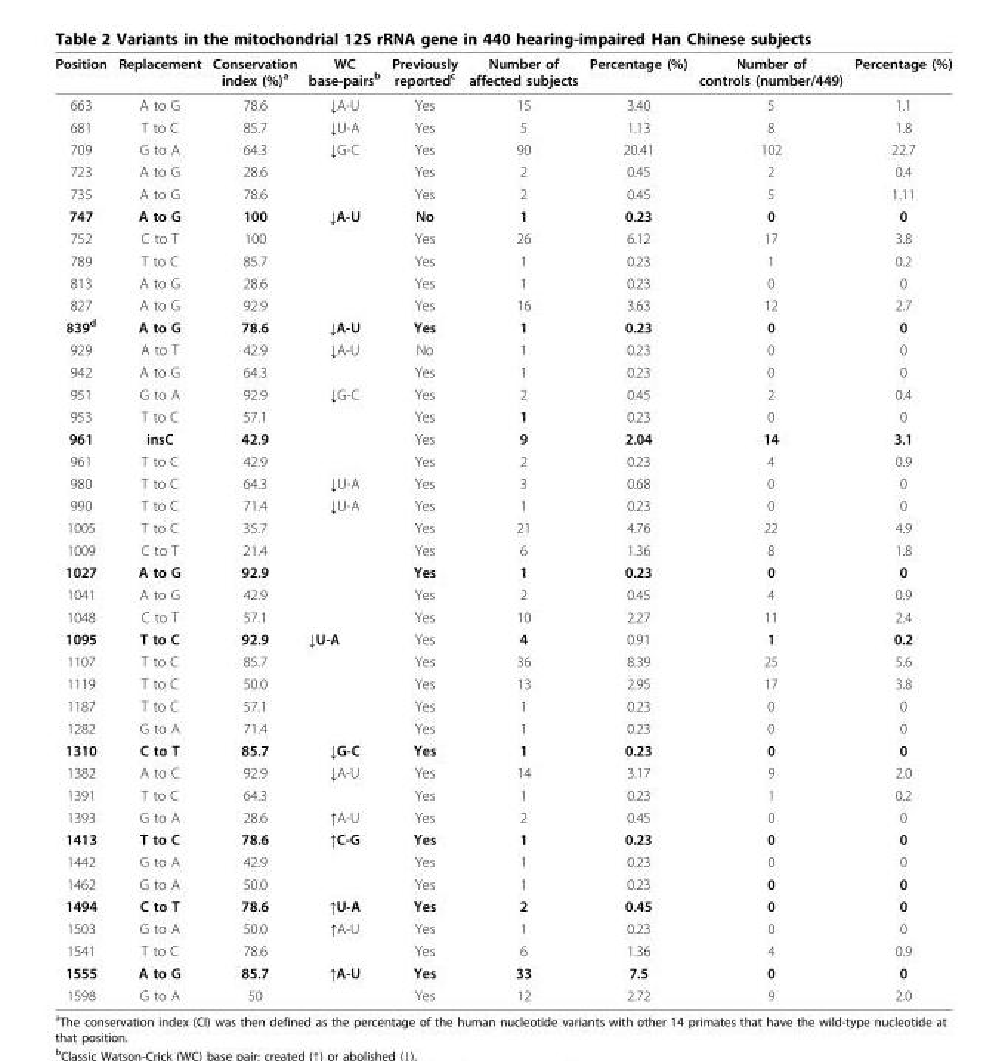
<table><thead><tr><td>Position</td><td>Replacement</td><td>Conservation index (%)<sup>a</sup></td><td>WC base-pairs<sup>b</sup></td><td>Previously reported<sup>c</sup></td><td>Number of affected subjects</td><td>Percentage (%)</td><td>Number of controls (number/449)</td><td>Percentage (%)</td></tr></thead><tbody><tr><td>663</td><td>A to G</td><td>78.6</td><td>↓A-U</td><td>Yes</td><td>15</td><td>3.40</td><td>5</td><td>1.1</td></tr><tr><td>681</td><td>T to C</td><td>85.7</td><td>↓U-A</td><td>Yes</td><td>5</td><td>1.13</td><td>8</td><td>1.8</td></tr><tr><td>709</td><td>G to A</td><td>64.3</td><td>↓G-C</td><td>Yes</td><td>90</td><td>20.41</td><td>102</td><td>22.7</td></tr><tr><td>723</td><td>A to G</td><td>28.6</td><td></td><td>Yes</td><td>2</td><td>0.45</td><td>2</td><td>0.4</td></tr><tr><td>735</td><td>A to G</td><td>78.6</td><td></td><td>Yes</td><td>2</td><td>0.45</td><td>5</td><td>1.11</td></tr><tr><td>747</td><td>A to G</td><td>100</td><td>↓A-U</td><td>No</td><td>1</td><td>0.23</td><td>0</td><td>0</td></tr><tr><td>752</td><td>C to T</td><td>100</td><td></td><td>Yes</td><td>26</td><td>6.12</td><td>17</td><td>3.8</td></tr><tr><td>789</td><td>T to C</td><td>85.7</td><td></td><td>Yes</td><td>1</td><td>0.23</td><td>1</td><td>0.2</td></tr><tr><td>813</td><td>A to G</td><td>28.6</td><td></td><td>Yes</td><td>1</td><td>0.23</td><td>0</td><td>0</td></tr><tr><td>827</td><td>A to G</td><td>92.9</td><td></td><td>Yes</td><td>16</td><td>3.63</td><td>12</td><td>2.7</td></tr><tr><td>839<sup>d</sup></td><td>A to G</td><td>78.6</td><td>↓A-U</td><td>Yes</td><td>1</td><td>0.23</td><td>0</td><td>0</td></tr><tr><td>929</td><td>A to T</td><td>42.9</td><td>↓A-U</td><td>No</td><td>1</td><td>0.23</td><td>0</td><td>0</td></tr><tr><td>942</td><td>A to G</td><td>64.3</td><td></td><td>Yes</td><td>1</td><td>0.23</td><td>0</td><td>0</td></tr><tr><td>951</td><td>G to A</td><td>92.9</td><td>↓G-C</td><td>Yes</td><td>2</td><td>0.45</td><td>2</td><td>0.4</td></tr><tr><td>953</td><td>T to C</td><td>57.1</td><td></td><td>Yes</td><td>1</td><td>0.23</td><td>0</td><td>0</td></tr><tr><td>961</td><td>insC</td><td>42.9</td><td></td><td>Yes</td><td>9</td><td>2.04</td><td>14</td><td>3.1</td></tr><tr><td>961</td><td>T to C</td><td>42.9</td><td></td><td>Yes</td><td>2</td><td>0.23</td><td>4</td><td>0.9</td></tr><tr><td>980</td><td>T to C</td><td>64.3</td><td>↓U-A</td><td>Yes</td><td>3</td><td>0.68</td><td>0</td><td>0</td></tr><tr><td>990</td><td>T to C</td><td>71.4</td><td>↓U-A</td><td>Yes</td><td>1</td><td>0.23</td><td>0</td><td>0</td></tr><tr><td>1005</td><td>T to C</td><td>35.7</td><td></td><td>Yes</td><td>21</td><td>4.76</td><td>22</td><td>4.9</td></tr><tr><td>1009</td><td>C to T</td><td>21.4</td><td></td><td>Yes</td><td>6</td><td>1.36</td><td>8</td><td>1.8</td></tr><tr><td>1027</td><td>A to G</td><td>92.9</td><td></td><td>Yes</td><td>1</td><td>0.23</td><td>0</td><td>0</td></tr><tr><td>1041</td><td>A to G</td><td>42.9</td><td></td><td>Yes</td><td>2</td><td>0.45</td><td>4</td><td>0.9</td></tr><tr><td>1048</td><td>C to T</td><td>57.1</td><td></td><td>Yes</td><td>10</td><td>2.27</td><td>11</td><td>2.4</td></tr><tr><td>1095</td><td>T to C</td><td>92.9</td><td>↓U-A</td><td>Yes</td><td>4</td><td>0.91</td><td>1</td><td>0.2</td></tr><tr><td>1107</td><td>T to C</td><td>85.7</td><td></td><td>Yes</td><td>36</td><td>8.39</td><td>25</td><td>5.6</td></tr><tr><td>1119</td><td>T to C</td><td>50.0</td><td></td><td>Yes</td><td>13</td><td>2.95</td><td>17</td><td>3.8</td></tr><tr><td>1187</td><td>T to C</td><td>57.1</td><td></td><td>Yes</td><td>1</td><td>0.23</td><td>0</td><td>0</td></tr><tr><td>1282</td><td>G to A</td><td>71.4</td><td></td><td>Yes</td><td>1</td><td>0.23</td><td>0</td><td>0</td></tr><tr><td>1310</td><td>C to T</td><td>85.7</td><td>↓G-C</td><td>Yes</td><td>1</td><td>0.23</td><td>0</td><td>0</td></tr><tr><td>1382</td><td>A to C</td><td>92.9</td><td>↓A-U</td><td>Yes</td><td>14</td><td>3.17</td><td>9</td><td>2.0</td></tr><tr><td>1391</td><td>T to C</td><td>64.3</td><td></td><td>Yes</td><td>1</td><td>0.23</td><td>1</td><td>0.2</td></tr><tr><td>1393</td><td>G to A</td><td>28.6</td><td>↑A-U</td><td>Yes</td><td>2</td><td>0.45</td><td>0</td><td>0</td></tr><tr><td>1413</td><td>T to C</td><td>78.6</td><td>↑C-G</td><td>Yes</td><td>1</td><td>0.23</td><td>0</td><td>0</td></tr><tr><td>1442</td><td>G to A</td><td>42.9</td><td></td><td>Yes</td><td>1</td><td>0.23</td><td>0</td><td>0</td></tr><tr><td>1462</td><td>G to A</td><td>50.0</td><td></td><td>Yes</td><td>1</td><td>0.23</td><td>0</td><td>0</td></tr><tr><td>1494</td><td>C to T</td><td>78.6</td><td>↑U-A</td><td>Yes</td><td>2</td><td>0.45</td><td>0</td><td>0</td></tr><tr><td>1503</td><td>G to A</td><td>50.0</td><td>↑A-U</td><td>Yes</td><td>1</td><td>0.23</td><td>0</td><td>0</td></tr><tr><td>1541</td><td>T to C</td><td>78.6</td><td></td><td>Yes</td><td>6</td><td>1.36</td><td>4</td><td>0.9</td></tr><tr><td>1555</td><td>A to G</td><td>85.7</td><td>↑A-U</td><td>Yes</td><td>33</td><td>7.5</td><td>0</td><td>0</td></tr><tr><td>1598</td><td>G to A</td><td>50</td><td></td><td>Yes</td><td>12</td><td>2.72</td><td>9</td><td>2.0</td></tr></tbody></table>